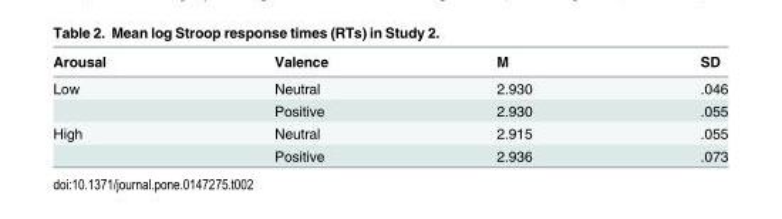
<table><thead><tr><td>Arousal</td><td>Valence</td><td>M</td><td>SD</td></tr></thead><tbody><tr><td rowspan="2">Low</td><td>Neutral</td><td>2.930</td><td>.046</td></tr><tr><td>Positive</td><td>2.930</td><td>.055</td></tr><tr><td rowspan="2">High</td><td>Neutral</td><td>2.915</td><td>.055</td></tr><tr><td>Positive</td><td>2.936</td><td>.073</td></tr></tbody></table>